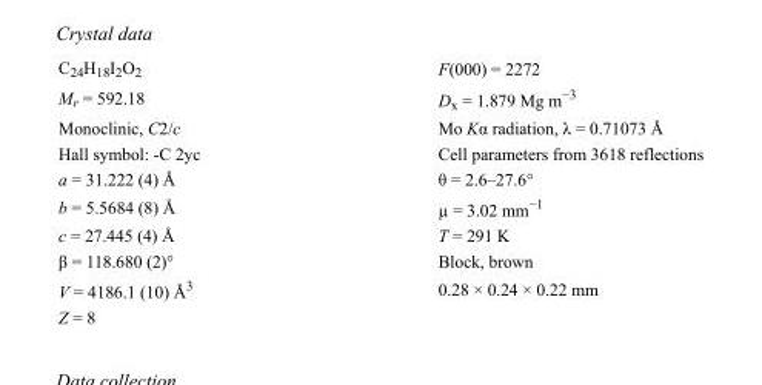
<table><tbody><tr><td>C<sub>24</sub>H<sub>18</sub>I<sub>2</sub>O<sub>2</sub></td><td>F(000) = 2272</td></tr><tr><td>M<sub>r</sub> = 592.18</td><td>D<sub>x</sub> = 1.879 Mg m<sup>−3</sup></td></tr><tr><td>Monoclinic, C2/c</td><td>Mo Kα radiation, λ = 0.71073 Å</td></tr><tr><td>Hall symbol: -C 2yc</td><td>Cell parameters from 3618 reflections</td></tr><tr><td>a = 31.222 (4) Å</td><td>θ = 2.6–27.6°</td></tr><tr><td>b = 5.5684 (8) Å</td><td>µ = 3.02 mm<sup>−1</sup></td></tr><tr><td>c = 27.445 (4) Å</td><td>T = 291 K</td></tr><tr><td>β = 118.680 (2)°</td><td>Block, brown</td></tr><tr><td>V = 4186.1 (10) Å<sup>3</sup></td><td>0.28 × 0.24 × 0.22 mm</td></tr><tr><td>Z = 8</td><td></td></tr></tbody></table>